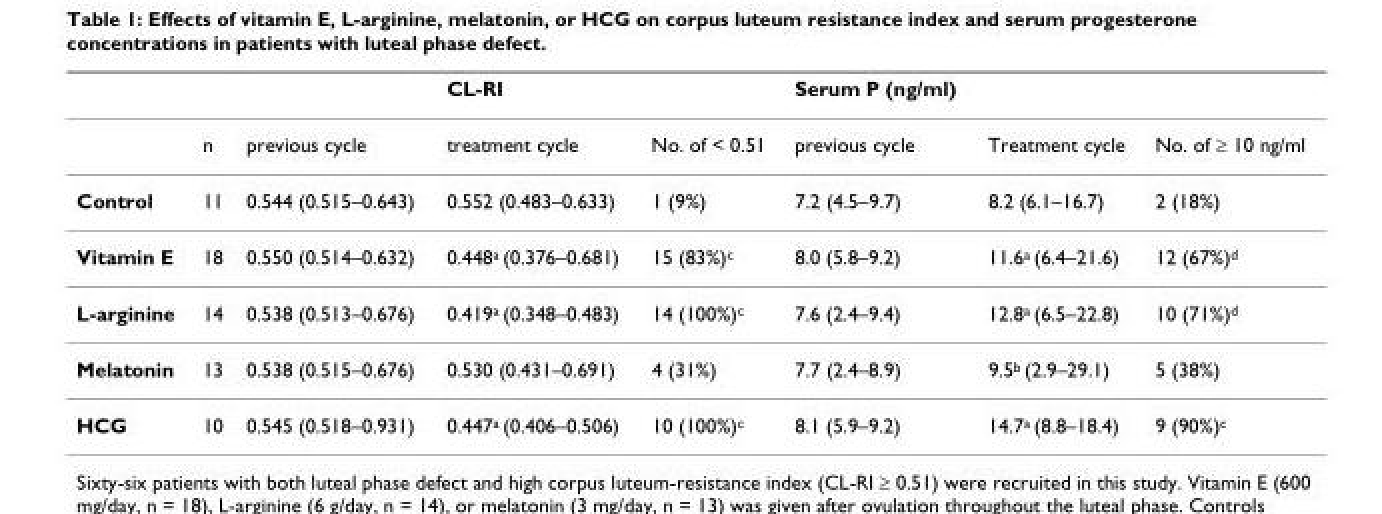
<table><thead><tr><td></td><td></td><td></td><td>CL-RI</td><td></td><td>Serum P (ng/ml)</td><td></td><td></td></tr></thead><tbody><tr><td></td><td>n</td><td>previous cycle</td><td>treatment cycle</td><td>No. of &lt; 0.51</td><td>previous cycle</td><td>Treatment cycle</td><td>No. of ≥ 10 ng/ml</td></tr><tr><td>Control</td><td>11</td><td>0.544 (0.515–0.643)</td><td>0.552 (0.483–0.633)</td><td>1 (9%)</td><td>7.2 (4.5–9.7)</td><td>8.2 (6.1–16.7)</td><td>2 (18%)</td></tr><tr><td>Vitamin E</td><td>18</td><td>0.550 (0.514–0.632)</td><td>0.448<sup>a</sup> (0.376–0.681)</td><td>15 (83%)<sup>c</sup></td><td>8.0 (5.8–9.2)</td><td>11.6<sup>a</sup> (6.4–21.6)</td><td>12 (67%)<sup>d</sup></td></tr><tr><td>L-arginine</td><td>14</td><td>0.538 (0.513–0.676)</td><td>0.419<sup>a</sup> (0.348–0.483)</td><td>14 (100%)<sup>c</sup></td><td>7.6 (2.4–9.4)</td><td>12.8<sup>a</sup> (6.5–22.8)</td><td>10 (71%)<sup>d</sup></td></tr><tr><td>Melatonin</td><td>13</td><td>0.538 (0.515–0.676)</td><td>0.530 (0.431–0.691)</td><td>4 (31%)</td><td>7.7 (2.4–8.9)</td><td>9.5<sup>b</sup> (2.9–29.1)</td><td>5 (38%)</td></tr><tr><td>HCG</td><td>10</td><td>0.545 (0.518–0.931)</td><td>0.447<sup>a</sup> (0.406–0.506)</td><td>10 (100%)<sup>c</sup></td><td>8.1 (5.9–9.2)</td><td>14.7<sup>a</sup> (8.8–18.4)</td><td>9 (90%)<sup>c</sup></td></tr></tbody></table>